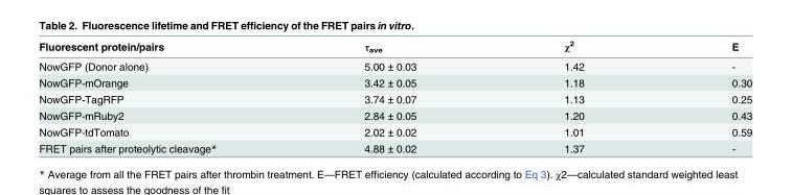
<table><thead><tr><td>Fluorescent protein/pairs</td><td>τ<sub>ave</sub></td><td>χ<sup>2</sup></td><td>E</td></tr></thead><tbody><tr><td>NowGFP (Donor alone)</td><td>5.00 ± 0.03</td><td>1.42</td><td>-</td></tr><tr><td>NowGFP-mOrange</td><td>3.42 ± 0.05</td><td>1.18</td><td>0.30</td></tr><tr><td>NowGFP-TagRFP</td><td>3.74 ± 0.07</td><td>1.13</td><td>0.25</td></tr><tr><td>NowGFP-mRuby2</td><td>2.84 ± 0.05</td><td>1.20</td><td>0.43</td></tr><tr><td>NowGFP-tdTomato</td><td>2.02 ± 0.02</td><td>1.01</td><td>0.59</td></tr><tr><td>FRET pairs after proteolytic cleavage*</td><td>4.88 ± 0.02</td><td>1.37</td><td>-</td></tr></tbody></table>